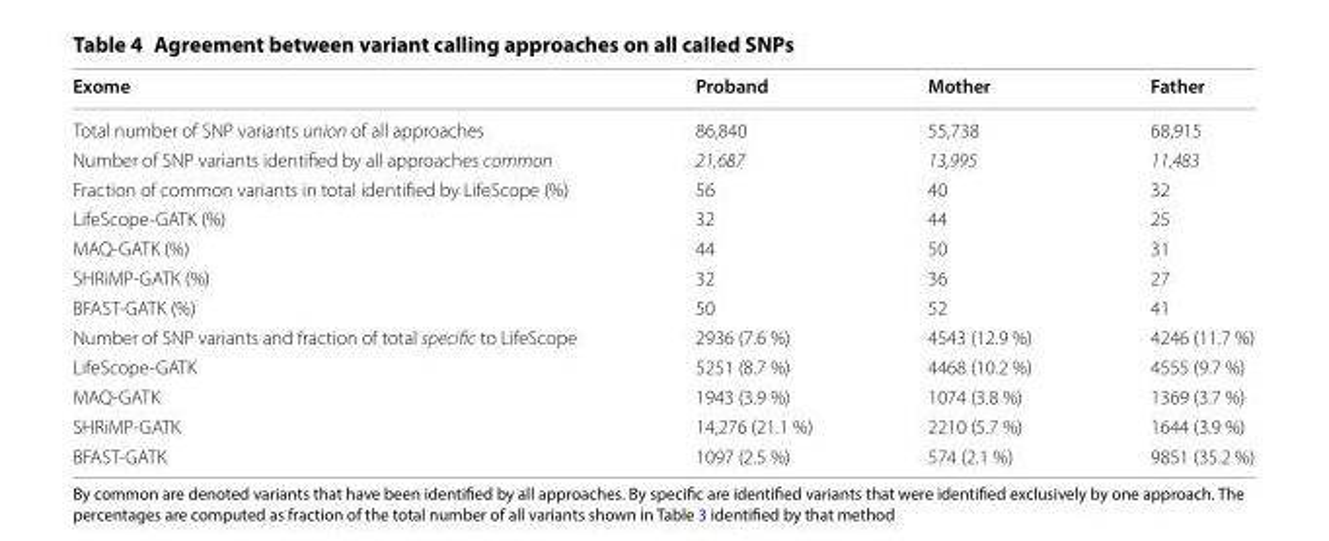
<table><thead><tr><td>Exome</td><td>Proband</td><td>Mother</td><td>Father</td></tr></thead><tbody><tr><td>Total number of SNP variants union of all approaches</td><td>86,840</td><td>55,738</td><td>68,915</td></tr><tr><td>Number of SNP variants identified by all approaches common</td><td>21,687</td><td>13,995</td><td>11,483</td></tr><tr><td>Fraction of common variants in total identified by LifeScope (%)</td><td>56</td><td>40</td><td>32</td></tr><tr><td>LifeScope-GATK (%)</td><td>32</td><td>44</td><td>25</td></tr><tr><td>MAQ-GATK (%)</td><td>44</td><td>50</td><td>31</td></tr><tr><td>SHRiMP-GATK (%)</td><td>32</td><td>36</td><td>27</td></tr><tr><td>BFAST-GATK (%)</td><td>50</td><td>52</td><td>41</td></tr><tr><td>Number of SNP variants and fraction of total specific to LifeScope</td><td>2936 (7.6 %)</td><td>4543 (12.9 %)</td><td>4246 (11.7 %)</td></tr><tr><td>LifeScope-GATK</td><td>5251 (8.7 %)</td><td>4468 (10.2 %)</td><td>4555 (9.7 %)</td></tr><tr><td>MAQ-GATK</td><td>1943 (3.9 %)</td><td>1074 (3.8 %)</td><td>1369 (3.7 %)</td></tr><tr><td>SHRiMP-GATK</td><td>14,276 (21.1 %)</td><td>2210 (5.7 %)</td><td>1644 (3.9 %)</td></tr><tr><td>BFAST-GATK</td><td>1097 (2.5 %)</td><td>574 (2.1 %)</td><td>9851 (35.2 %)</td></tr></tbody></table>